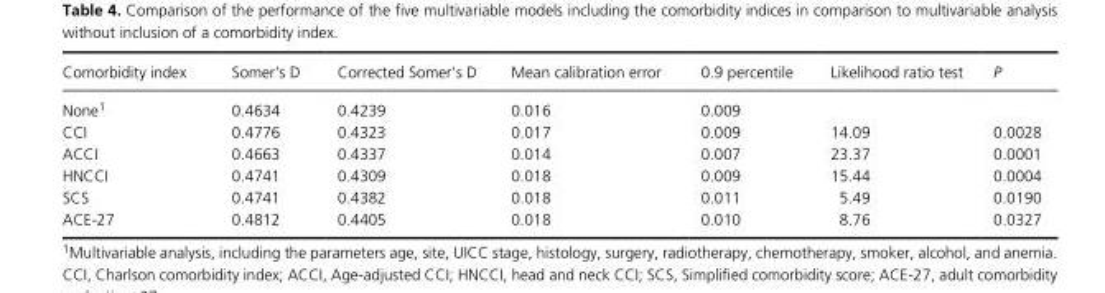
<table><thead><tr><td>Comorbidity index</td><td>Somer’s D</td><td>Corrected Somer’s D</td><td>Mean calibration error</td><td>0.9 percentile</td><td>Likelihood ratio test</td><td>P</td></tr></thead><tbody><tr><td>None1</td><td>0.4634</td><td>0.4239</td><td>0.016</td><td>0.009</td><td></td><td></td></tr><tr><td>CCI</td><td>0.4776</td><td>0.4323</td><td>0.017</td><td>0.009</td><td>14.09</td><td>0.0028</td></tr><tr><td>ACCI</td><td>0.4663</td><td>0.4337</td><td>0.014</td><td>0.007</td><td>23.37</td><td>0.0001</td></tr><tr><td>HNCCI</td><td>0.4741</td><td>0.4309</td><td>0.018</td><td>0.009</td><td>15.44</td><td>0.0004</td></tr><tr><td>SCS</td><td>0.4741</td><td>0.4382</td><td>0.018</td><td>0.011</td><td>5.49</td><td>0.0190</td></tr><tr><td>ACE- 27</td><td>0.4812</td><td>0.4405</td><td>0.018</td><td>0.010</td><td>8.76</td><td>0.0327</td></tr></tbody></table>